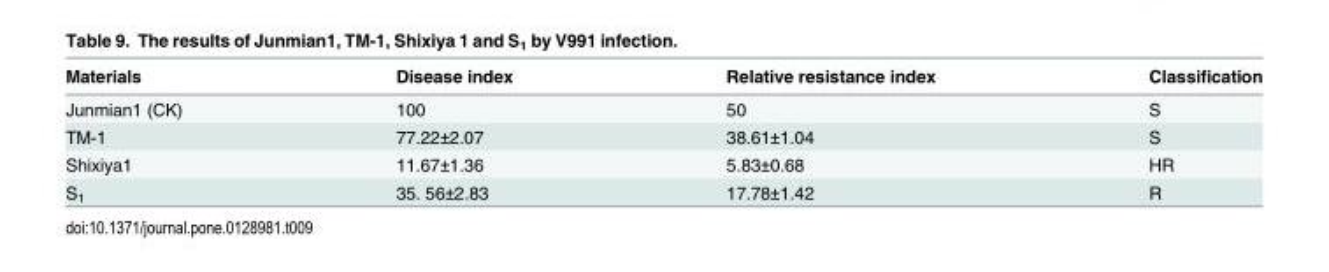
<table><thead><tr><td>Materials</td><td>Disease index</td><td>Relative resistance index</td><td>Classification</td></tr></thead><tbody><tr><td>Junmian1 (CK)</td><td>100</td><td>50</td><td>S</td></tr><tr><td>TM-1</td><td>77.22±2.07</td><td>38.61±1.04</td><td>S</td></tr><tr><td>Shixiya1</td><td>11.67±1.36</td><td>5.83±0.68</td><td>HR</td></tr><tr><td>S<sub>1</sub></td><td>35. 56±2.83</td><td>17.78±1.42</td><td>R</td></tr></tbody></table>